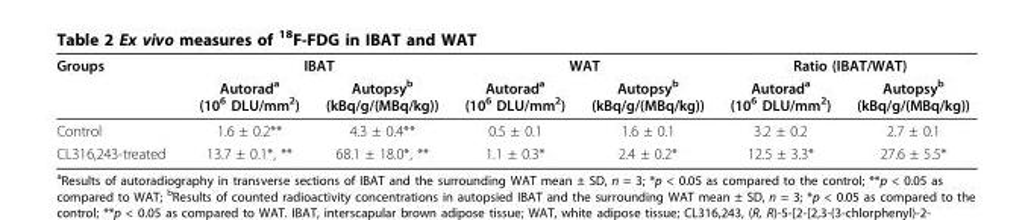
<table><thead><tr><td rowspan="2">Groups</td><td colspan="2">IBAT</td><td colspan="2">WAT</td><td colspan="2">Ratio (IBAT/WAT)</td></tr><tr><td>Autorad<sup>a</sup> (10<sup>6</sup> DLU/mm<sup>2</sup>)</td><td>Autopsy<sup>b</sup> (kBq/g/(MBq/kg))</td><td>Autorad<sup>a</sup> (10<sup>6</sup> DLU/mm<sup>2</sup>)</td><td>Autopsy<sup>b</sup> (kBq/g/(MBq/kg))</td><td>Autorad<sup>a</sup> (10<sup>6</sup> DLU/mm<sup>2</sup>)</td><td>Autopsy<sup>b</sup> (kBq/g/(MBq/kg))</td></tr></thead><tbody><tr><td>Control</td><td>1.6 ± 0.2**</td><td>4.3 ± 0.4**</td><td>0.5 ± 0.1</td><td>1.6 ± 0.1</td><td>3.2 ± 0.2</td><td>2.7 ± 0.1</td></tr><tr><td>CL316,243-treated</td><td>13.7 ± 0.1*, **</td><td>68.1 ± 18.0*, **</td><td>1.1 ± 0.3*</td><td>2.4 ± 0.2*</td><td>12.5 ± 3.3*</td><td>27.6 ± 5.5*</td></tr></tbody></table>